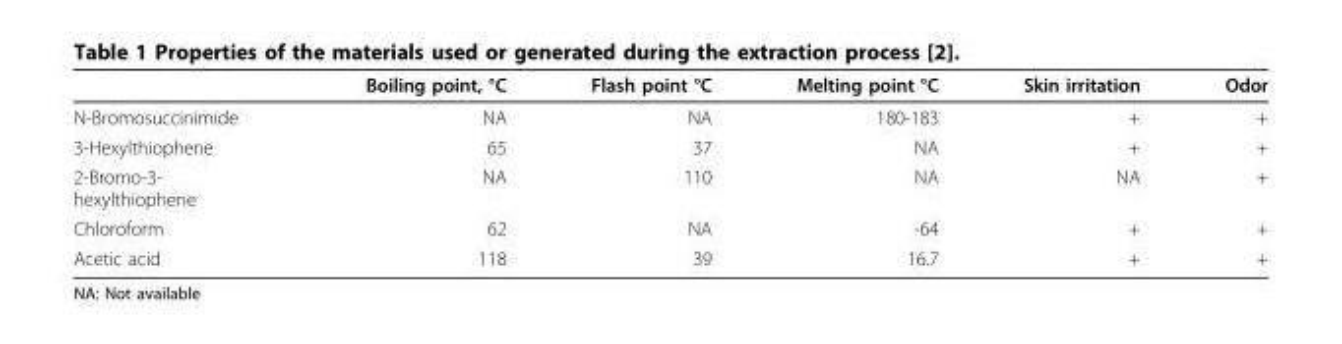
<table><thead><tr><td></td><td>Boiling point, °C</td><td>Flash point °C</td><td>Melting point °C</td><td>Skin irritation</td><td>Odor</td></tr></thead><tbody><tr><td>N-Bromosuccinimide</td><td>NA</td><td>NA</td><td>180-183</td><td>+</td><td>+</td></tr><tr><td>3-Hexylthiophene</td><td>65</td><td>37</td><td>NA</td><td>+</td><td>+</td></tr><tr><td>2-Bromo-3- hexylthiophene</td><td>NA</td><td>110</td><td>NA</td><td>NA</td><td>+</td></tr><tr><td>Chloroform</td><td>62</td><td>NA</td><td>-64</td><td>+</td><td>+</td></tr><tr><td>Acetic acid</td><td>118</td><td>39</td><td>16.7</td><td>+</td><td>+</td></tr></tbody></table>